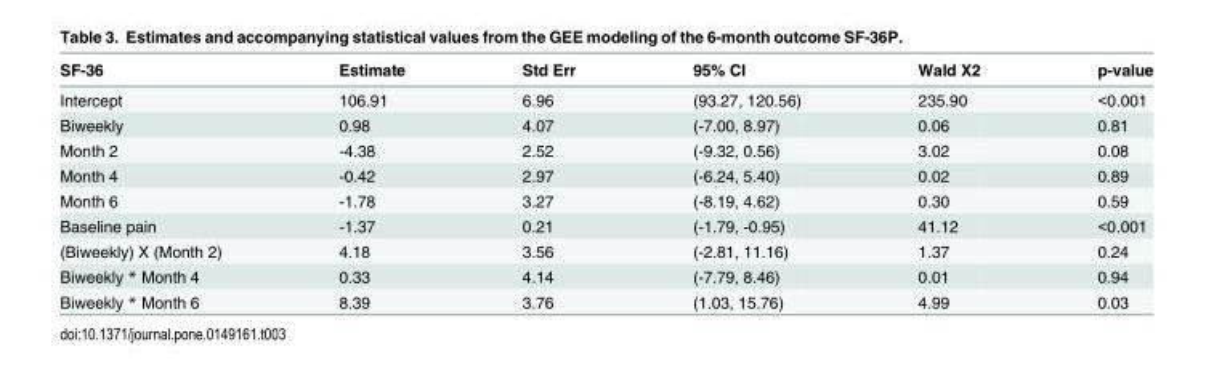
<table><thead><tr><td>SF-36</td><td>Estimate</td><td>Std Err</td><td>95% CI</td><td>Wald X2</td><td>p-value</td></tr></thead><tbody><tr><td>Intercept</td><td>106.91</td><td>6.96</td><td>(93.27, 120.56)</td><td>235.90</td><td>&lt;0.001</td></tr><tr><td>Biweekly</td><td>0.98</td><td>4.07</td><td>(-7.00, 8.97)</td><td>0.06</td><td>0.81</td></tr><tr><td>Month 2</td><td>-4.38</td><td>2.52</td><td>(-9.32, 0.56)</td><td>3.02</td><td>0.08</td></tr><tr><td>Month 4</td><td>-0.42</td><td>2.97</td><td>(-6.24, 5.40)</td><td>0.02</td><td>0.89</td></tr><tr><td>Month 6</td><td>-1.78</td><td>3.27</td><td>(-8.19, 4.62)</td><td>0.30</td><td>0.59</td></tr><tr><td>Baseline pain</td><td>-1.37</td><td>0.21</td><td>(-1.79, -0.95)</td><td>41.12</td><td>&lt;0.001</td></tr><tr><td>(Biweekly) X (Month 2)</td><td>4.18</td><td>3.56</td><td>(-2.81, 11.16)</td><td>1.37</td><td>0.24</td></tr><tr><td>Biweekly * Month 4</td><td>0.33</td><td>4.14</td><td>(-7.79, 8.46)</td><td>0.01</td><td>0.94</td></tr><tr><td>Biweekly * Month 6</td><td>8.39</td><td>3.76</td><td>(1.03, 15.76)</td><td>4.99</td><td>0.03</td></tr></tbody></table>